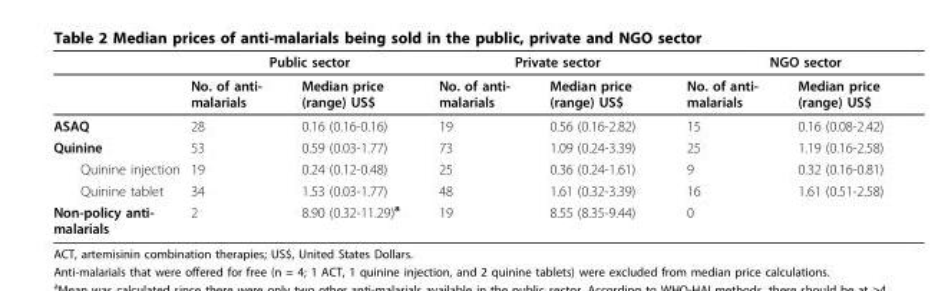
<table><thead><tr><td rowspan="2"></td><td colspan="2">Public sector</td><td colspan="2">Private sector</td><td colspan="2">NGO sector</td></tr><tr><td>No. of anti- malarials</td><td>Median price (range) US$</td><td>No. of anti- malarials</td><td>Median price (range) US$</td><td>No. of anti- malarials</td><td>Median price (range) US$</td></tr></thead><tbody><tr><td>ASAQ</td><td>28</td><td>0.16 (0.16-0.16)</td><td>19</td><td>0.56 (0.16-2.82)</td><td>15</td><td>0.16 (0.08-2.42)</td></tr><tr><td>Quinine</td><td>53</td><td>0.59 (0.03-1.77)</td><td>73</td><td>1.09 (0.24-3.39)</td><td>25</td><td>1.19 (0.16-2.58)</td></tr><tr><td>Quinine injection</td><td>19</td><td>0.24 (0.12-0.48)</td><td>25</td><td>0.36 (0.24-1.61)</td><td>9</td><td>0.32 (0.16-0.81)</td></tr><tr><td>Quinine tablet</td><td>34</td><td>1.53 (0.03-1.77)</td><td>48</td><td>1.61 (0.32-3.39)</td><td>16</td><td>1.61 (0.51-2.58)</td></tr><tr><td>Non-policy anti- malarials</td><td>2</td><td>8.90 (0.32-11.29)<sup>a</sup></td><td>19</td><td>8.55 (8.35-9.44)</td><td>0</td><td></td></tr></tbody></table>